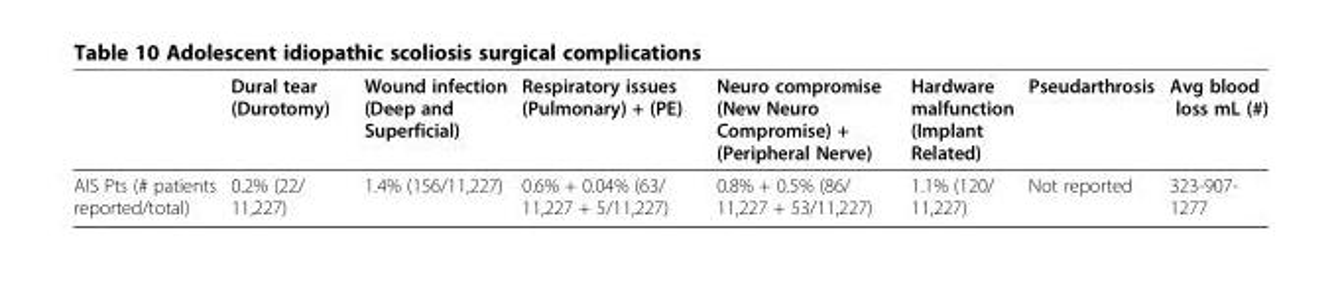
<table><thead><tr><td></td><td>Dural tear (Durotomy)</td><td>Wound infection (Deep and Superficial)</td><td>Respiratory issues (Pulmonary) + (PE)</td><td>Neuro compromise (New Neuro Compromise) + (Peripheral Nerve)</td><td>Hardware malfunction (Implant Related)</td><td>Pseudarthrosis</td><td>Avg blood loss mL (#)</td></tr></thead><tbody><tr><td>AIS Pts (# patients reported/total)</td><td>0.2% (22/ 11,227)</td><td>1.4% (156/11,227)</td><td>0.6% + 0.04% (63/ 11,227 + 5/11,227)</td><td>0.8% + 0.5% (86/ 11,227 + 53/11,227)</td><td>1.1% (120/ 11,227)</td><td>Not reported</td><td>323-907- 1277</td></tr></tbody></table>